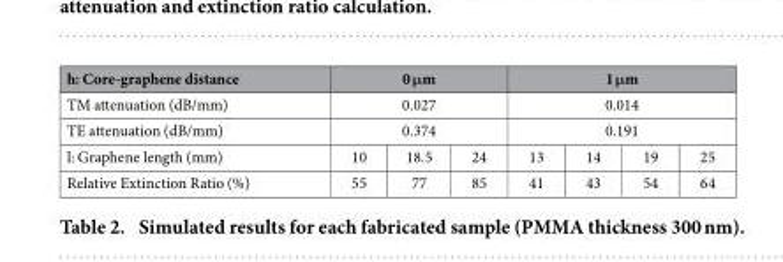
<table><thead><tr><td rowspan="4">h: Core-graphene distance TM attenuation (dB/mm) TE attenuation (dB/mm) l: Graphene length (mm)</td><td rowspan="3" colspan="3">0 μm 0.027 0.374</td><td rowspan="3" colspan="4">1 μm 0.014 0.191</td></tr><tr></tr><tr></tr><tr><td>10</td><td>18.5</td><td>24</td><td>13</td><td>14</td><td>19</td><td>25</td></tr></thead><tbody><tr><td>Relative Extinction Ratio (%)</td><td>55</td><td>77</td><td>85</td><td>41</td><td>43</td><td>54</td><td>64</td></tr></tbody></table>